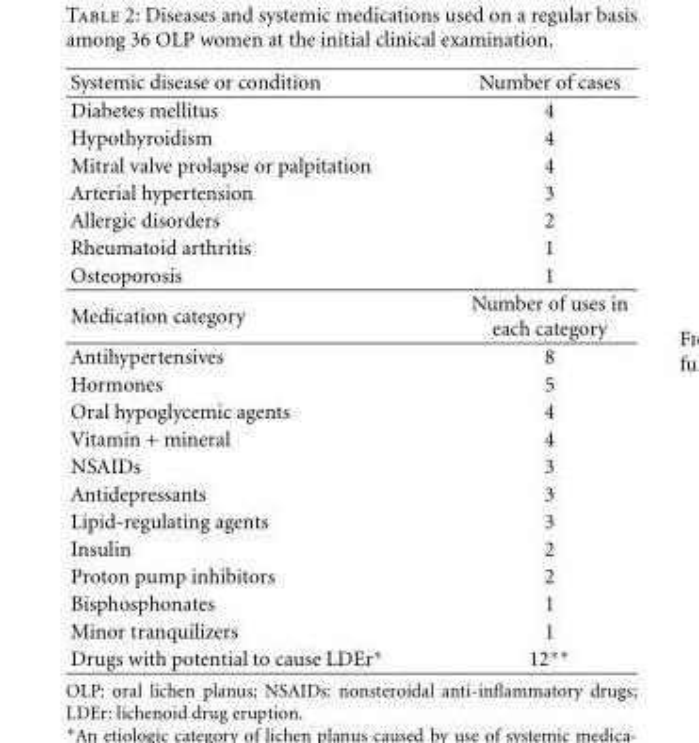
<table><thead><tr><td>Systemic disease or condition</td><td>Number of cases</td></tr></thead><tbody><tr><td>Diabetes mellitus</td><td>4</td></tr><tr><td>Hypothyroidism</td><td>4</td></tr><tr><td>Mitral valve prolapse or palpitation</td><td>4</td></tr><tr><td>Arterial hypertension</td><td>3</td></tr><tr><td>Allergic disorders</td><td>2</td></tr><tr><td>Rheumatoid arthritis</td><td>1</td></tr><tr><td>Osteoporosis</td><td>1</td></tr><tr><td>Medication category</td><td>Number of uses in each category</td></tr><tr><td>Antihypertensives</td><td>8</td></tr><tr><td>Hormones</td><td>5</td></tr><tr><td>Oral hypoglycemic agents</td><td>4</td></tr><tr><td>Vitamin + mineral</td><td>4</td></tr><tr><td>NSAIDs</td><td>3</td></tr><tr><td>Antidepressants</td><td>3</td></tr><tr><td>Lipid-regulating agents</td><td>3</td></tr><tr><td>Insulin</td><td>2</td></tr><tr><td>Proton pump inhibitors</td><td>2</td></tr><tr><td>Bisphosphonates</td><td>1</td></tr><tr><td>Minor tranquilizers</td><td>1</td></tr><tr><td>Drugs with potential to cause LDEr∗</td><td>12∗∗</td></tr></tbody></table>